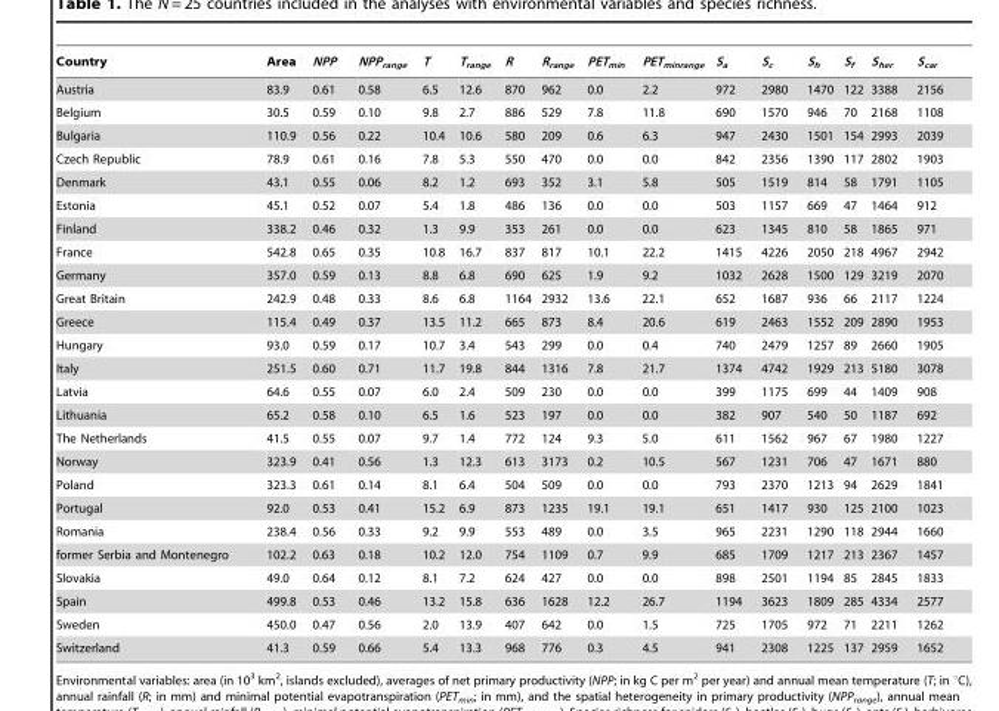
<table><thead><tr><td>Country</td><td>Area</td><td>NPP</td><td>NPP<sub>range</sub></td><td>T</td><td>T<sub>range</sub></td><td>R</td><td>R<sub>range</sub></td><td>PET<sub>min</sub></td><td>PET<sub>minrange</sub></td><td>S<sub>a</sub></td><td>S<sub>c</sub></td><td>S<sub>h</sub></td><td>S<sub>f</sub></td><td>S<sub>her</sub></td><td>S<sub>car</sub></td></tr></thead><tbody><tr><td>Austria</td><td>83.9</td><td>0.61</td><td>0.58</td><td>6.5</td><td>12.6</td><td>870</td><td>962</td><td>0.0</td><td>2.2</td><td>972</td><td>2980</td><td>1470</td><td>122</td><td>3388</td><td>2156</td></tr><tr><td>Belgium</td><td>30.5</td><td>0.59</td><td>0.10</td><td>9.8</td><td>2.7</td><td>886</td><td>529</td><td>7.8</td><td>11.8</td><td>690</td><td>1570</td><td>946</td><td>70</td><td>2168</td><td>1108</td></tr><tr><td>Bulgaria</td><td>110.9</td><td>0.56</td><td>0.22</td><td>10.4</td><td>10.6</td><td>580</td><td>209</td><td>0.6</td><td>6.3</td><td>947</td><td>2430</td><td>1501</td><td>154</td><td>2993</td><td>2039</td></tr><tr><td>Czech Republic</td><td>78.9</td><td>0.61</td><td>0.16</td><td>7.8</td><td>5.3</td><td>550</td><td>470</td><td>0.0</td><td>0.0</td><td>842</td><td>2356</td><td>1390</td><td>117</td><td>2802</td><td>1903</td></tr><tr><td>Denmark</td><td>43.1</td><td>0.55</td><td>0.06</td><td>8.2</td><td>1.2</td><td>693</td><td>352</td><td>3.1</td><td>5.8</td><td>505</td><td>1519</td><td>814</td><td>58</td><td>1791</td><td>1105</td></tr><tr><td>Estonia</td><td>45.1</td><td>0.52</td><td>0.07</td><td>5.4</td><td>1.8</td><td>486</td><td>136</td><td>0.0</td><td>0.0</td><td>503</td><td>1157</td><td>669</td><td>47</td><td>1464</td><td>912</td></tr><tr><td>Finland</td><td>338.2</td><td>0.46</td><td>0.32</td><td>1.3</td><td>9.9</td><td>353</td><td>261</td><td>0.0</td><td>0.0</td><td>623</td><td>1345</td><td>810</td><td>58</td><td>1865</td><td>971</td></tr><tr><td>France</td><td>542.8</td><td>0.65</td><td>0.35</td><td>10.8</td><td>16.7</td><td>837</td><td>817</td><td>10.1</td><td>22.2</td><td>1415</td><td>4226</td><td>2050</td><td>218</td><td>4967</td><td>2942</td></tr><tr><td>Germany</td><td>357.0</td><td>0.59</td><td>0.13</td><td>8.8</td><td>6.8</td><td>690</td><td>625</td><td>1.9</td><td>9.2</td><td>1032</td><td>2628</td><td>1500</td><td>129</td><td>3219</td><td>2070</td></tr><tr><td>Great Britain</td><td>242.9</td><td>0.48</td><td>0.33</td><td>8.6</td><td>6.8</td><td>1164</td><td>2932</td><td>13.6</td><td>22.1</td><td>652</td><td>1687</td><td>936</td><td>66</td><td>2117</td><td>1224</td></tr><tr><td>Greece</td><td>115.4</td><td>0.49</td><td>0.37</td><td>13.5</td><td>11.2</td><td>665</td><td>873</td><td>8.4</td><td>20.6</td><td>619</td><td>2463</td><td>1552</td><td>209</td><td>2890</td><td>1953</td></tr><tr><td>Hungary</td><td>93.0</td><td>0.59</td><td>0.17</td><td>10.7</td><td>3.4</td><td>543</td><td>299</td><td>0.0</td><td>0.4</td><td>740</td><td>2479</td><td>1257</td><td>89</td><td>2660</td><td>1905</td></tr><tr><td>Italy</td><td>251.5</td><td>0.60</td><td>0.71</td><td>11.7</td><td>19.8</td><td>844</td><td>1316</td><td>7.8</td><td>21.7</td><td>1374</td><td>4742</td><td>1929</td><td>213</td><td>5180</td><td>3078</td></tr><tr><td>Latvia</td><td>64.6</td><td>0.55</td><td>0.07</td><td>6.0</td><td>2.4</td><td>509</td><td>230</td><td>0.0</td><td>0.0</td><td>399</td><td>1175</td><td>699</td><td>44</td><td>1409</td><td>908</td></tr><tr><td>Lithuania</td><td>65.2</td><td>0.58</td><td>0.10</td><td>6.5</td><td>1.6</td><td>523</td><td>197</td><td>0.0</td><td>0.0</td><td>382</td><td>907</td><td>540</td><td>50</td><td>1187</td><td>692</td></tr><tr><td>The Netherlands</td><td>41.5</td><td>0.55</td><td>0.07</td><td>9.7</td><td>1.4</td><td>772</td><td>124</td><td>9.3</td><td>5.0</td><td>611</td><td>1562</td><td>967</td><td>67</td><td>1980</td><td>1227</td></tr><tr><td>Norway</td><td>323.9</td><td>0.41</td><td>0.56</td><td>1.3</td><td>12.3</td><td>613</td><td>3173</td><td>0.2</td><td>10.5</td><td>567</td><td>1231</td><td>706</td><td>47</td><td>1671</td><td>880</td></tr><tr><td>Poland</td><td>323.3</td><td>0.61</td><td>0.14</td><td>8.1</td><td>6.4</td><td>504</td><td>509</td><td>0.0</td><td>0.0</td><td>793</td><td>2370</td><td>1213</td><td>94</td><td>2629</td><td>1841</td></tr><tr><td>Portugal</td><td>92.0</td><td>0.53</td><td>0.41</td><td>15.2</td><td>6.9</td><td>873</td><td>1235</td><td>19.1</td><td>19.1</td><td>651</td><td>1417</td><td>930</td><td>125</td><td>2100</td><td>1023</td></tr><tr><td>Romania</td><td>238.4</td><td>0.56</td><td>0.33</td><td>9.2</td><td>9.9</td><td>553</td><td>489</td><td>0.0</td><td>3.5</td><td>965</td><td>2231</td><td>1290</td><td>118</td><td>2944</td><td>1660</td></tr><tr><td>former Serbia and Montenegro</td><td>102.2</td><td>0.63</td><td>0.18</td><td>10.2</td><td>12.0</td><td>754</td><td>1109</td><td>0.7</td><td>9.9</td><td>685</td><td>1709</td><td>1217</td><td>213</td><td>2367</td><td>1457</td></tr><tr><td>Slovakia</td><td>49.0</td><td>0.64</td><td>0.12</td><td>8.1</td><td>7.2</td><td>624</td><td>427</td><td>0.0</td><td>0.0</td><td>898</td><td>2501</td><td>1194</td><td>85</td><td>2845</td><td>1833</td></tr><tr><td>Spain</td><td>499.8</td><td>0.53</td><td>0.46</td><td>13.2</td><td>15.8</td><td>636</td><td>1628</td><td>12.2</td><td>26.7</td><td>1194</td><td>3623</td><td>1809</td><td>285</td><td>4334</td><td>2577</td></tr><tr><td>Sweden</td><td>450.0</td><td>0.47</td><td>0.56</td><td>2.0</td><td>13.9</td><td>407</td><td>642</td><td>0.0</td><td>1.5</td><td>725</td><td>1705</td><td>972</td><td>71</td><td>2211</td><td>1262</td></tr><tr><td>Switzerland</td><td>41.3</td><td>0.59</td><td>0.66</td><td>5.4</td><td>13.3</td><td>968</td><td>776</td><td>0.3</td><td>4.5</td><td>941</td><td>2308</td><td>1225</td><td>137</td><td>2959</td><td>1652</td></tr></tbody></table>